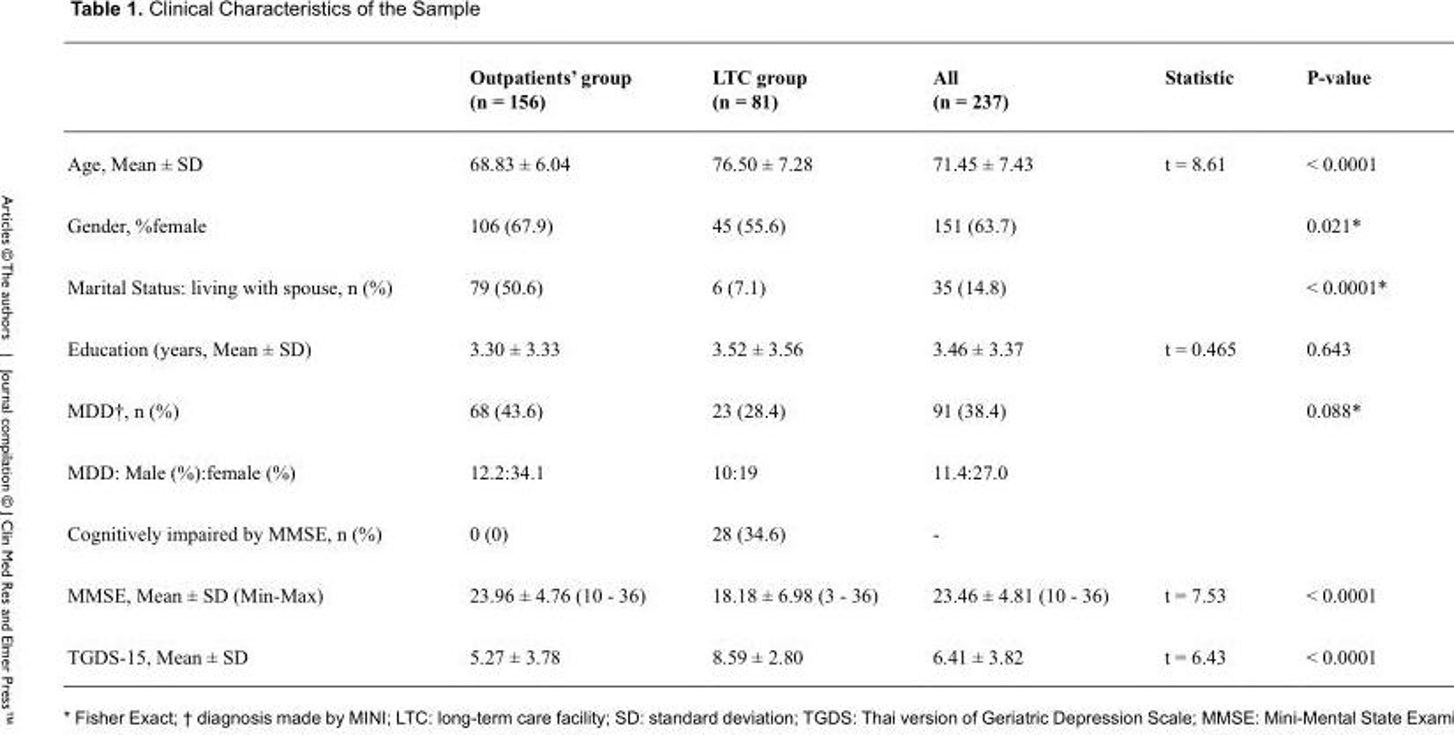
<table><thead><tr><td></td><td>Outpatients’ group (n = 156)</td><td>LTC group (n = 81)</td><td>All (n = 237)</td><td>Statistic</td><td>P-value</td></tr></thead><tbody><tr><td>Age, Mean ± SD</td><td>68.83 ± 6.04</td><td>76.50 ± 7.28</td><td>71.45 ± 7.43</td><td>t = 8.61</td><td>&lt; 0.0001</td></tr><tr><td>Gender, %female</td><td>106 (67.9)</td><td>45 (55.6)</td><td>151 (63.7)</td><td></td><td>0.021*</td></tr><tr><td>Marital Status: living with spouse, n (%)</td><td>79 (50.6)</td><td>6 (7.1)</td><td>35 (14.8)</td><td></td><td>&lt; 0.0001*</td></tr><tr><td>Education (years, Mean ± SD)</td><td>3.30 ± 3.33</td><td>3.52 ± 3.56</td><td>3.46 ± 3.37</td><td>t = 0.465</td><td>0.643</td></tr><tr><td>MDD†, n (%)</td><td>68 (43.6)</td><td>23 (28.4)</td><td>91 (38.4)</td><td></td><td>0.088*</td></tr><tr><td>MDD: Male (%):female (%)</td><td>12.2:34.1</td><td>10:19</td><td>11.4:27.0</td><td></td><td></td></tr><tr><td>Cognitively impaired by MMSE, n (%)</td><td>0 (0)</td><td>28 (34.6)</td><td>-</td><td></td><td></td></tr><tr><td>MMSE, Mean ± SD (Min-Max)</td><td>23.96 ± 4.76 (10 - 36)</td><td>18.18 ± 6.98 (3 - 36)</td><td>23.46 ± 4.81 (10 - 36)</td><td>t = 7.53</td><td>&lt; 0.0001</td></tr><tr><td>TGDS-15, Mean ± SD</td><td>5.27 ± 3.78</td><td>8.59 ± 2.80</td><td>6.41 ± 3.82</td><td>t = 6.43</td><td>&lt; 0.0001</td></tr></tbody></table>